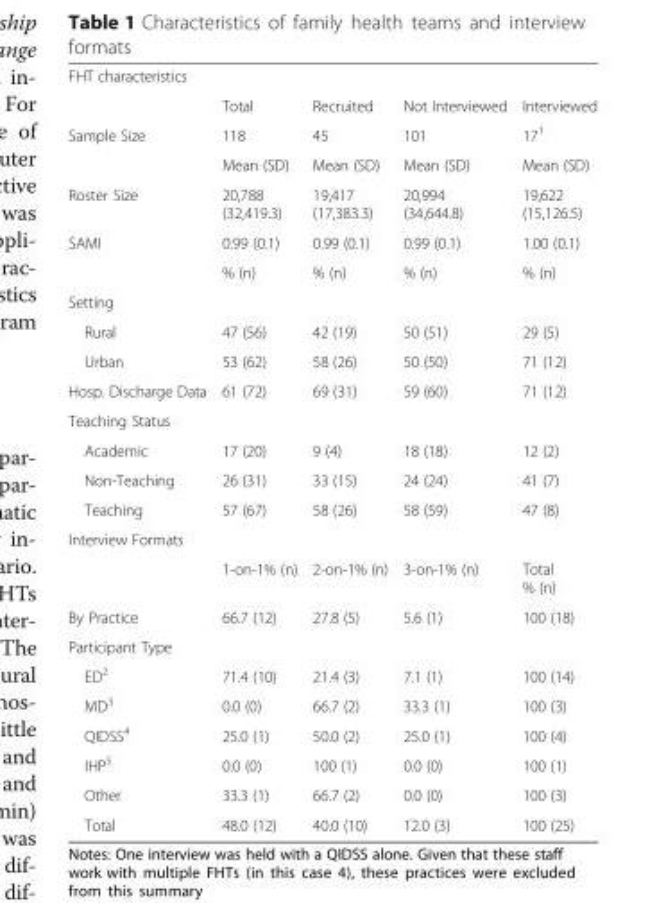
<table><tbody><tr><td colspan="5">FHT characteristics</td></tr><tr><td></td><td>Total</td><td>Recruited</td><td>Not Interviewed</td><td>Interviewed</td></tr><tr><td rowspan="2">Sample Size</td><td>118</td><td>45</td><td>101</td><td>17<sup>1</sup></td></tr><tr><td>Mean (SD)</td><td>Mean (SD)</td><td>Mean (SD)</td><td>Mean (SD)</td></tr><tr><td>Roster Size</td><td>20,788 (32,419.3)</td><td>19,417 (17,383.3)</td><td>20,994 (34,644.8)</td><td>19,622 (15,126.5)</td></tr><tr><td rowspan="2">SAMI</td><td>0.99 (0.1)</td><td>0.99 (0.1)</td><td>0.99 (0.1)</td><td>1.00 (0.1)</td></tr><tr><td>% (n)</td><td>% (n)</td><td>% (n)</td><td>% (n)</td></tr><tr><td colspan="5">Setting</td></tr><tr><td>Rural</td><td>47 (56)</td><td>42 (19)</td><td>50 (51)</td><td>29 (5)</td></tr><tr><td>Urban</td><td>53 (62)</td><td>58 (26)</td><td>50 (50)</td><td>71 (12)</td></tr><tr><td>Hosp. Discharge Data</td><td>61 (72)</td><td>69 (31)</td><td>59 (60)</td><td>71 (12)</td></tr><tr><td colspan="5">Teaching Status</td></tr><tr><td>Academic</td><td>17 (20)</td><td>9 (4)</td><td>18 (18)</td><td>12 (2)</td></tr><tr><td>Non-Teaching</td><td>26 (31)</td><td>33 (15)</td><td>24 (24)</td><td>41 (7)</td></tr><tr><td>Teaching</td><td>57 (67)</td><td>58 (26)</td><td>58 (59)</td><td>47 (8)</td></tr><tr><td colspan="5">Interview Formats</td></tr><tr><td></td><td>1-on-1% (n)</td><td>2-on-1% (n)</td><td>3-on-1% (n)</td><td>Total % (n)</td></tr><tr><td>By Practice</td><td>66.7 (12)</td><td>27.8 (5)</td><td>5.6 (1)</td><td>100 (18)</td></tr><tr><td colspan="5">Participant Type</td></tr><tr><td>ED<sup>2</sup></td><td>71.4 (10)</td><td>21.4 (3)</td><td>7.1 (1)</td><td>100 (14)</td></tr><tr><td>MD<sup>3</sup></td><td>0.0 (0)</td><td>66.7 (2)</td><td>33.3 (1)</td><td>100 (3)</td></tr><tr><td>QIDSS<sup>4</sup></td><td>25.0 (1)</td><td>50.0 (2)</td><td>25.0 (1)</td><td>100 (4)</td></tr><tr><td>IHP<sup>5</sup></td><td>0.0 (0)</td><td>100 (1)</td><td>0.0 (0)</td><td>100 (1)</td></tr><tr><td>Other</td><td>33.3 (1)</td><td>66.7 (2)</td><td>0.0 (0)</td><td>100 (3)</td></tr><tr><td>Total</td><td>48.0 (12)</td><td>40.0 (10)</td><td>12.0 (3)</td><td>100 (25)</td></tr></tbody></table>